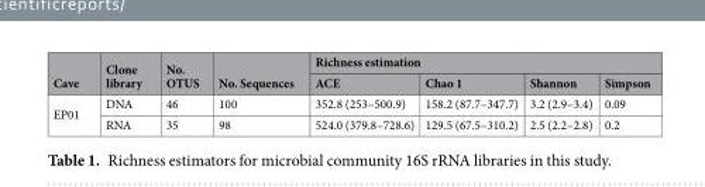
<table><thead><tr><td rowspan="2">Cave</td><td rowspan="2">Clone library</td><td rowspan="2">No. OTUS</td><td rowspan="2">No. Sequences</td><td colspan="4">Richness estimation</td></tr><tr><td>ACE</td><td>Chao 1</td><td>Shannon</td><td>Simpson</td></tr></thead><tbody><tr><td rowspan="2">EP01</td><td>DNA</td><td>46</td><td>100</td><td>352.8 (253–500.9)</td><td>158.2 (87.7–347.7)</td><td>3.2 (2.9–3.4)</td><td>0.09</td></tr><tr><td>RNA</td><td>35</td><td>98</td><td>524.0 (379.8–728.6)</td><td>129.5 (67.5–310.2)</td><td>2.5 (2.2–2.8)</td><td>0.2</td></tr></tbody></table>